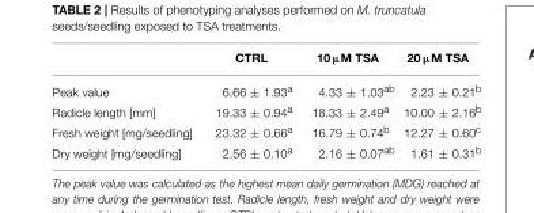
<table><thead><tr><td></td><td>CTRL</td><td>10 µM TSA</td><td>20 µM TSA</td></tr></thead><tbody><tr><td>Peak value</td><td>6.66 ± 1.93<sup>a</sup></td><td>4.33 ± 1.03<sup>ab</sup></td><td>2.23 ± 0.21<sup>b</sup></td></tr><tr><td>Radicle length [mm]</td><td>19.33 ± 0.94<sup>a</sup></td><td>18.33 ± 2.49<sup>a</sup></td><td>10.00 ± 2.16<sup>b</sup></td></tr><tr><td>Fresh weight [mg/seedling]</td><td>23.32 ± 0.66<sup>a</sup></td><td>16.79 ± 0.74<sup>b</sup></td><td>12.27 ± 0.60<sup>c</sup></td></tr><tr><td>Dry weight [mg/seedling]</td><td>2.56 ± 0.10<sup>a</sup></td><td>2.16 ± 0.07<sup>ab</sup></td><td>1.61 ± 0.31<sup>b</sup></td></tr></tbody></table>